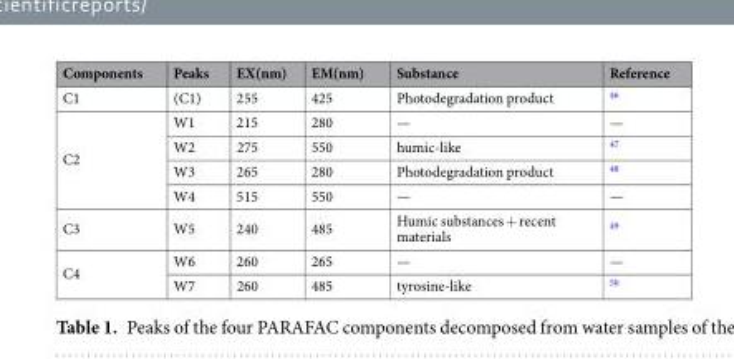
<table><thead><tr><td>Components</td><td>Peaks</td><td>EX(nm)</td><td>EM(nm)</td><td>Substance</td><td>Reference</td></tr></thead><tbody><tr><td>C1</td><td>(C1)</td><td>255</td><td>425</td><td>Photodegradation product</td><td><sup>46</sup></td></tr><tr><td rowspan="4">C2</td><td>W1</td><td>215</td><td>280</td><td>—</td><td>—</td></tr><tr><td>W2</td><td>275</td><td>550</td><td>humic-like</td><td><sup>47</sup></td></tr><tr><td>W3</td><td>265</td><td>280</td><td>Photodegradation product</td><td><sup>48</sup></td></tr><tr><td>W4</td><td>515</td><td>550</td><td>—</td><td>—</td></tr><tr><td>C3</td><td>W5</td><td>240</td><td>485</td><td>Humic substances + recent materials</td><td><sup>49</sup></td></tr><tr><td rowspan="2">C4</td><td>W6</td><td>260</td><td>265</td><td>—</td><td>—</td></tr><tr><td>W7</td><td>260</td><td>485</td><td>tyrosine-like</td><td><sup>50</sup></td></tr></tbody></table>